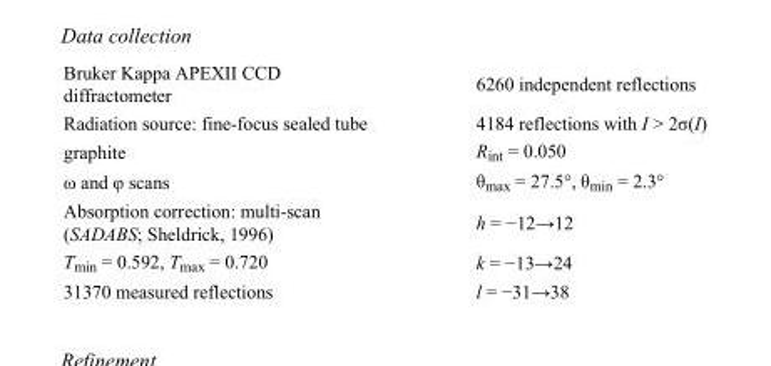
<table><tbody><tr><td>Bruker Kappa APEXII CCD diffractometer</td><td>6260 independent reflections</td></tr><tr><td>Radiation source: fine-focus sealed tube</td><td>4184 reflections with I &gt; 2σ(I)</td></tr><tr><td>graphite</td><td>R<sub>int</sub> = 0.050</td></tr><tr><td>ω and φ scans</td><td>θ<sub>max</sub> = 27.5°, θ<sub>min</sub> = 2.3°</td></tr><tr><td>Absorption correction: multi-scan (SADABS; Sheldrick, 1996)</td><td>h = −12→12</td></tr><tr><td>T<sub>min</sub> = 0.592, T<sub>max</sub> = 0.720</td><td>k = −13→24</td></tr><tr><td>31370 measured reflections</td><td>l = −31→38</td></tr></tbody></table>